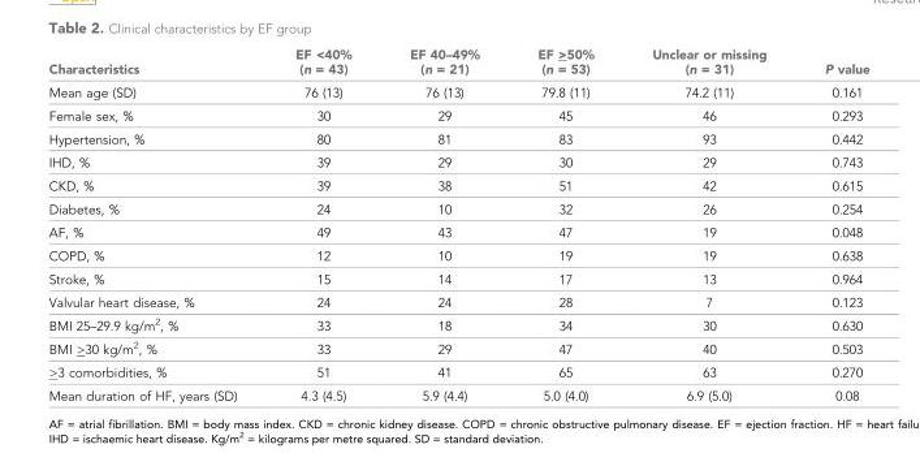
<table><thead><tr><td>Characteristics</td><td>EF &lt;40% (n = 43)</td><td>EF 40–49% (n = 21)</td><td>EF &gt;50% (n = 53)</td><td>Unclear or missing (n = 31)</td><td>P value</td></tr></thead><tbody><tr><td>Mean age (SD)</td><td>76 (13)</td><td>76 (13)</td><td>79.8 (11)</td><td>74.2 (11)</td><td>0.161</td></tr><tr><td>Female sex, %</td><td>30</td><td>29</td><td>45</td><td>46</td><td>0.293</td></tr><tr><td>Hypertension, %</td><td>80</td><td>81</td><td>83</td><td>93</td><td>0.442</td></tr><tr><td>IHD, %</td><td>39</td><td>29</td><td>30</td><td>29</td><td>0.743</td></tr><tr><td>CKD, %</td><td>39</td><td>38</td><td>51</td><td>42</td><td>0.615</td></tr><tr><td>Diabetes, %</td><td>24</td><td>10</td><td>32</td><td>26</td><td>0.254</td></tr><tr><td>AF, %</td><td>49</td><td>43</td><td>47</td><td>19</td><td>0.048</td></tr><tr><td>COPD, %</td><td>12</td><td>10</td><td>19</td><td>19</td><td>0.638</td></tr><tr><td>Stroke, %</td><td>15</td><td>14</td><td>17</td><td>13</td><td>0.964</td></tr><tr><td>Valvular heart disease, %</td><td>24</td><td>24</td><td>28</td><td>7</td><td>0.123</td></tr><tr><td>BMI 25–29.9 kg/m<sup>2</sup>, %</td><td>33</td><td>18</td><td>34</td><td>30</td><td>0.630</td></tr><tr><td>BMI &gt;30 kg/m<sup>2</sup>, %</td><td>33</td><td>29</td><td>47</td><td>40</td><td>0.503</td></tr><tr><td>&gt;3 comorbidities, %</td><td>51</td><td>41</td><td>65</td><td>63</td><td>0.270</td></tr><tr><td>Mean duration of HF, years (SD)</td><td>4.3 (4.5)</td><td>5.9 (4.4)</td><td>5.0 (4.0)</td><td>6.9 (5.0)</td><td>0.08</td></tr></tbody></table>